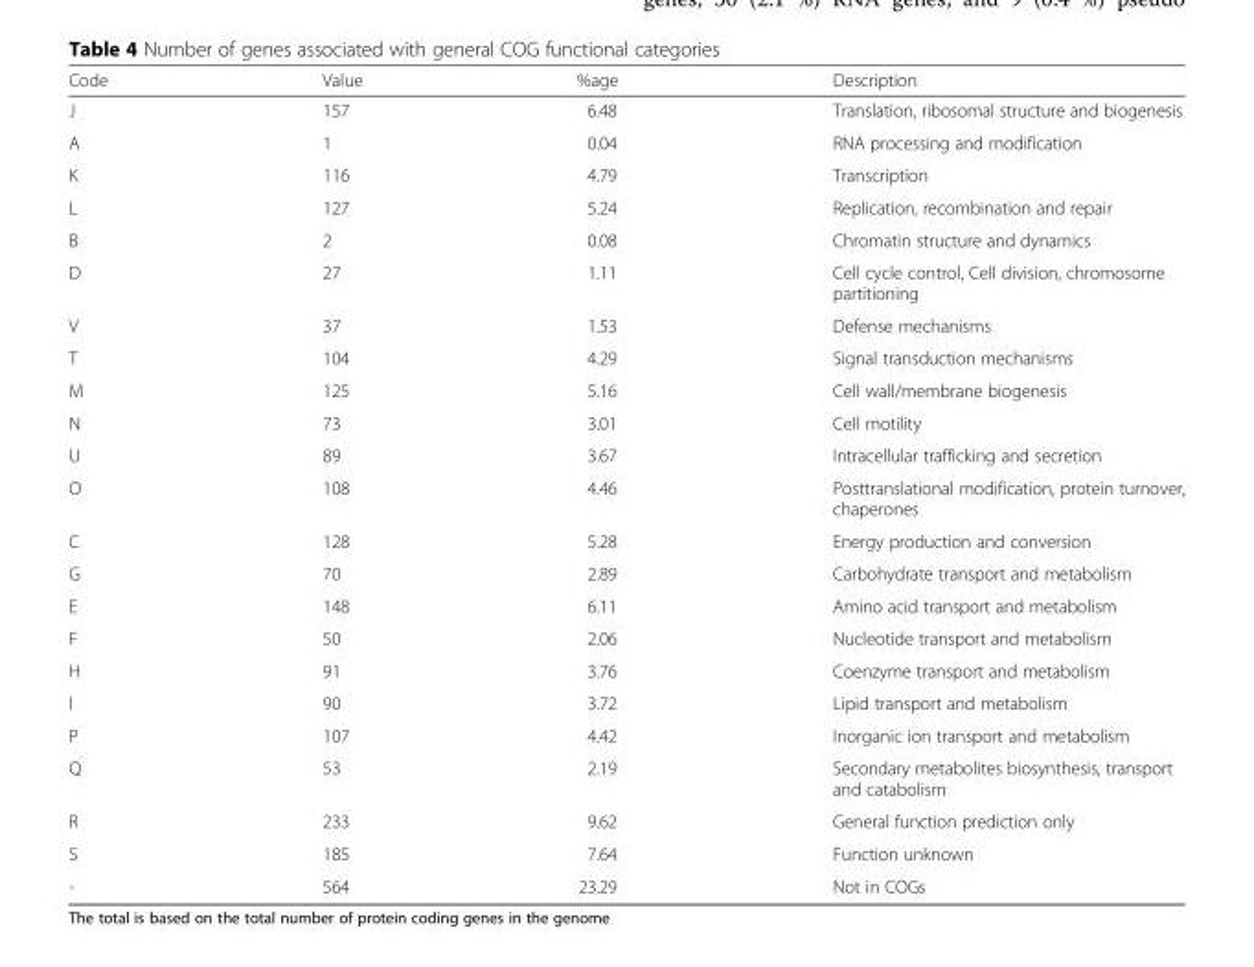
<table><thead><tr><td>Code</td><td>Value</td><td>%age</td><td>Description</td></tr></thead><tbody><tr><td>J</td><td>157</td><td>6.48</td><td>Translation, ribosomal structure and biogenesis</td></tr><tr><td>A</td><td>1</td><td>0.04</td><td>RNA processing and modification</td></tr><tr><td>K</td><td>116</td><td>4.79</td><td>Transcription</td></tr><tr><td>L</td><td>127</td><td>5.24</td><td>Replication, recombination and repair</td></tr><tr><td>B</td><td>2</td><td>0.08</td><td>Chromatin structure and dynamics</td></tr><tr><td>D</td><td>27</td><td>1.11</td><td>Cell cycle control, Cell division, chromosome partitioning</td></tr><tr><td>V</td><td>37</td><td>1.53</td><td>Defense mechanisms</td></tr><tr><td>T</td><td>104</td><td>4.29</td><td>Signal transduction mechanisms</td></tr><tr><td>M</td><td>125</td><td>5.16</td><td>Cell wall/membrane biogenesis</td></tr><tr><td>N</td><td>73</td><td>3.01</td><td>Cell motility</td></tr><tr><td>U</td><td>89</td><td>3.67</td><td>Intracellular trafficking and secretion</td></tr><tr><td>O</td><td>108</td><td>4.46</td><td>Posttranslational modification, protein turnover, chaperones</td></tr><tr><td>C</td><td>128</td><td>5.28</td><td>Energy production and conversion</td></tr><tr><td>G</td><td>70</td><td>2.89</td><td>Carbohydrate transport and metabolism</td></tr><tr><td>E</td><td>148</td><td>6.11</td><td>Amino acid transport and metabolism</td></tr><tr><td>F</td><td>50</td><td>2.06</td><td>Nucleotide transport and metabolism</td></tr><tr><td>H</td><td>91</td><td>3.76</td><td>Coenzyme transport and metabolism</td></tr><tr><td>I</td><td>90</td><td>3.72</td><td>Lipid transport and metabolism</td></tr><tr><td>P</td><td>107</td><td>4.42</td><td>Inorganic ion transport and metabolism</td></tr><tr><td>Q</td><td>53</td><td>2.19</td><td>Secondary metabolites biosynthesis, transport and catabolism</td></tr><tr><td>R</td><td>233</td><td>9.62</td><td>General function prediction only</td></tr><tr><td>S</td><td>185</td><td>7.64</td><td>Function unknown</td></tr><tr><td>-</td><td>564</td><td>23.29</td><td>Not in COGs</td></tr></tbody></table>